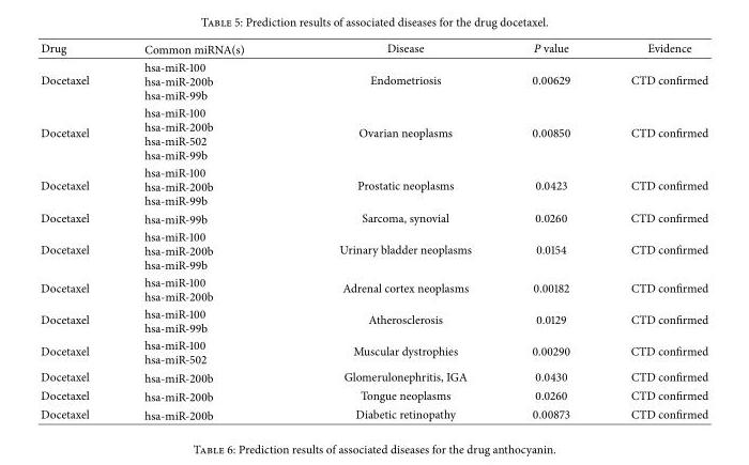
<table><thead><tr><td>Drug</td><td>Common miRNA(s)</td><td>Disease</td><td>P value</td><td>Evidence</td></tr></thead><tbody><tr><td>Docetaxel</td><td>hsa-miR-100 hsa-miR-200b hsa-miR-99b</td><td>Endometriosis</td><td>0.00629</td><td>CTD confirmed</td></tr><tr><td>Docetaxel</td><td>hsa-miR-100 hsa-miR-200b hsa-miR-502 hsa-miR-99b</td><td>Ovarian neoplasms</td><td>0.00850</td><td>CTD confirmed</td></tr><tr><td>Docetaxel</td><td>hsa-miR-100 hsa-miR-200b hsa-miR-99b</td><td>Prostatic neoplasms</td><td>0.0423</td><td>CTD confirmed</td></tr><tr><td>Docetaxel</td><td>hsa-miR-99b</td><td>Sarcoma, synovial</td><td>0.0260</td><td>CTD confirmed</td></tr><tr><td>Docetaxel</td><td>hsa-miR-100 hsa-miR-200b hsa-miR-99b</td><td>Urinary bladder neoplasms</td><td>0.0154</td><td>CTD confirmed</td></tr><tr><td>Docetaxel</td><td>hsa-miR-100 hsa-miR-200b</td><td>Adrenal cortex neoplasms</td><td>0.00182</td><td>CTD confirmed</td></tr><tr><td>Docetaxel</td><td>hsa-miR-100 hsa-miR-99b</td><td>Atherosclerosis</td><td>0.0129</td><td>CTD confirmed</td></tr><tr><td>Docetaxel</td><td>hsa-miR-100 hsa-miR-502</td><td>Muscular dystrophies</td><td>0.00290</td><td>CTD confirmed</td></tr><tr><td>Docetaxel</td><td>hsa-miR-200b</td><td>Glomerulonephritis, IGA</td><td>0.0430</td><td>CTD confirmed</td></tr><tr><td>Docetaxel</td><td>hsa-miR-200b</td><td>Tongue neoplasms</td><td>0.0260</td><td>CTD confirmed</td></tr><tr><td>Docetaxel</td><td>hsa-miR-200b</td><td>Diabetic retinopathy</td><td>0.00873</td><td>CTD confirmed</td></tr></tbody></table>